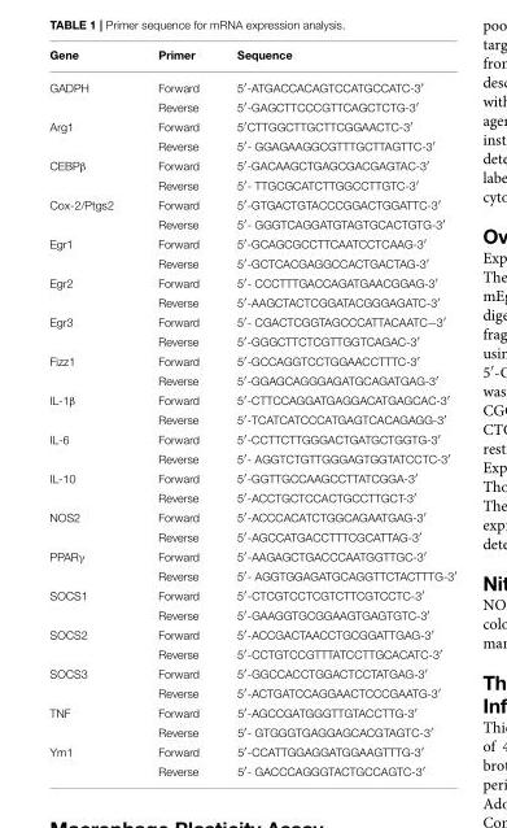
<table><thead><tr><td>Gene</td><td>Primer</td><td>Sequence</td></tr></thead><tbody><tr><td rowspan="2">GADPH</td><td>Forward</td><td>5′-ATGACCACAGTCCATGCCATC-3′</td></tr><tr><td>Reverse</td><td>5′-GAGCTTCCCGTTCAGCTCTG-3′</td></tr><tr><td rowspan="2">Arg1</td><td>Forward</td><td>5′CTTGGCTTGCTTCGGAACTC-3′</td></tr><tr><td>Reverse</td><td>5′- GGAGAAGGCGTTTGCTTAGTTC-3′</td></tr><tr><td rowspan="2">CEBPβ</td><td>Forward</td><td>5′-GACAAGCTGAGCGACGAGTAC-3′</td></tr><tr><td>Reverse</td><td>5′- TTGCGCATCTTGGCCTTGTC-3′</td></tr><tr><td rowspan="2">Cox-2/Ptgs2</td><td>Forward</td><td>5′-GTGACTGTACCCGGACTGGATTC-3′</td></tr><tr><td>Reverse</td><td>5′- GGGTCAGGATGTAGTGCACTGTG-3′</td></tr><tr><td rowspan="2">Egr1</td><td>Forward</td><td>5′-GCAGCGCCTTCAATCCTCAAG-3′</td></tr><tr><td>Reverse</td><td>5′-GCTCACGAGGCCACTGACTAG-3′</td></tr><tr><td rowspan="2">Egr2</td><td>Forward</td><td>5′- CCCTTTGACCAGATGAACGGAG-3′</td></tr><tr><td>Reverse</td><td>5′-AAGCTACTCGGATACGGGAGATC-3′</td></tr><tr><td rowspan="2">Egr3</td><td>Forward</td><td>5′- CGACTCGGTAGCCCATTACAATC−3′</td></tr><tr><td>Reverse</td><td>5′-GGGCTTCTCGTTGGTCAGAC-3′</td></tr><tr><td rowspan="2">Fizz1</td><td>Forward</td><td>5′-GCCAGGTCCTGGAACCTTTC-3′</td></tr><tr><td>Reverse</td><td>5′-GGAGCAGGGAGATGCAGATGAG-3′</td></tr><tr><td rowspan="2">IL-1β</td><td>Forward</td><td>5′-CTTCCAGGATGAGGACATGAGCAC-3′</td></tr><tr><td>Reverse</td><td>5′-TCATCATCCCATGAGTCACAGAGG-3′</td></tr><tr><td rowspan="2">IL-6</td><td>Forward</td><td>5′-CCTTCTTGGGACTGATGCTGGTG-3′</td></tr><tr><td>Reverse</td><td>5′- AGGTCTGTTGGGAGTGGTATCCTC-3′</td></tr><tr><td rowspan="2">IL-10</td><td>Forward</td><td>5′-GGTTGCCAAGCCTTATCGGA-3′</td></tr><tr><td>Reverse</td><td>5′-ACCTGCTCCACTGCCTTGCT-3′</td></tr><tr><td rowspan="2">NOS2</td><td>Forward</td><td>5′-ACCCACATCTGGCAGAATGAG-3′</td></tr><tr><td>Reverse</td><td>5′-AGCCATGACCTTTCGCATTAG-3′</td></tr><tr><td rowspan="2">PPARγ</td><td>Forward</td><td>5′-AAGAGCTGACCCAATGGTTGC-3′</td></tr><tr><td>Reverse</td><td>5′- AGGTGGAGATGCAGGTTCTACTTTG-3′</td></tr><tr><td rowspan="2">SOCS1</td><td>Forward</td><td>5′-CTCGTCCTCGTCTTCGTCCTC-3′</td></tr><tr><td>Reverse</td><td>5′-GAAGGTGCGGAAGTGAGTGTC-3′</td></tr><tr><td rowspan="2">SOCS2</td><td>Forward</td><td>5′-ACCGACTAACCTGCGGATTGAG-3′</td></tr><tr><td>Reverse</td><td>5′-CCTGTCCGTTTATCCTTGCACATC-3′</td></tr><tr><td rowspan="2">SOCS3</td><td>Forward</td><td>5′-GGCCACCTGGACTCCTATGAG-3′</td></tr><tr><td>Reverse</td><td>5′-ACTGATCCAGGAACTCCCGAATG-3′</td></tr><tr><td rowspan="2">TNF</td><td>Forward</td><td>5′-AGCCGATGGGTTGTACCTTG-3′</td></tr><tr><td>Reverse</td><td>5′- GTGGGTGAGGAGCACGTAGTC-3′</td></tr><tr><td rowspan="2">Ym1</td><td>Forward</td><td>5′-CCATTGGAGGATGGAAGTTTG-3′</td></tr><tr><td>Reverse</td><td>5′- GACCCAGGGTACTGCCAGTC-3′</td></tr></tbody></table>